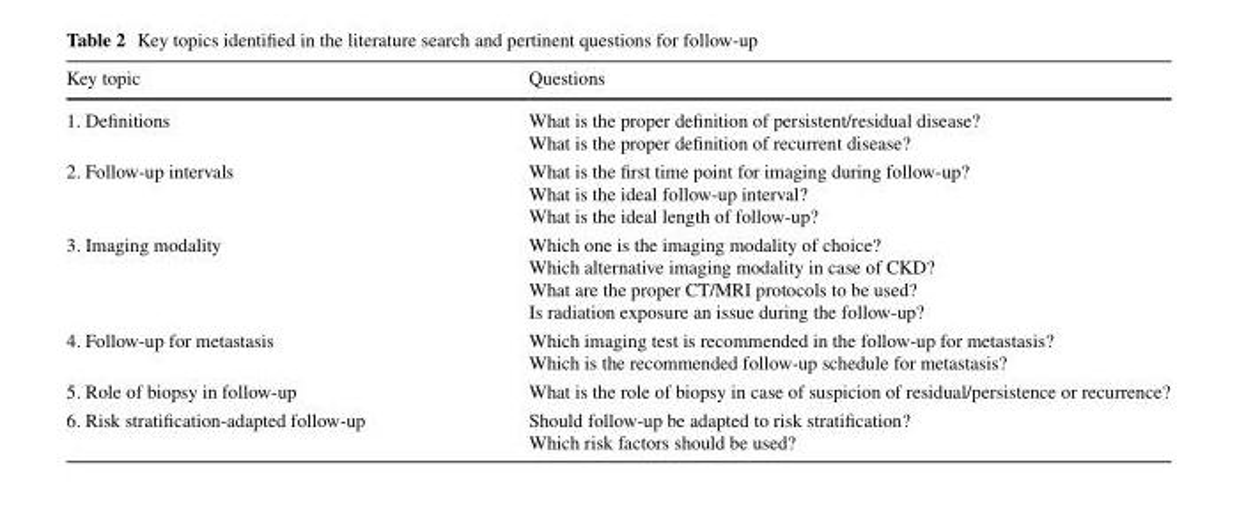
<table><thead><tr><td>Key topic</td><td>Questions</td></tr></thead><tbody><tr><td>1. Definitions</td><td>What is the proper definition of persistent/residual disease? What is the proper definition of recurrent disease?</td></tr><tr><td>2. Follow-up intervals</td><td>What is the first time point for imaging during follow-up? What is the ideal follow-up interval? What is the ideal length of follow-up?</td></tr><tr><td>3. Imaging modality</td><td>Which one is the imaging modality of choice? Which alternative imaging modality in case of CKD? What are the proper CT/MRI protocols to be used? Is radiation exposure an issue during the follow-up?</td></tr><tr><td>4. Follow-up for metastasis</td><td>Which imaging test is recommended in the follow-up for metastasis? Which is the recommended follow-up schedule for metastasis?</td></tr><tr><td>5. Role of biopsy in follow-up</td><td>What is the role of biopsy in case of suspicion of residual/persistence or recurrence?</td></tr><tr><td>6. Risk stratification-adapted follow-up</td><td>Should follow-up be adapted to risk stratification? Which risk factors should be used?</td></tr></tbody></table>